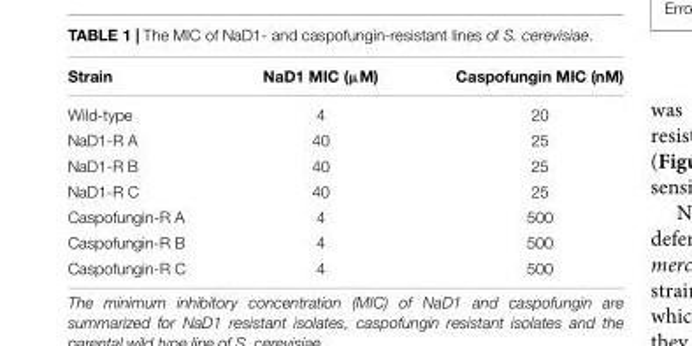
<table><thead><tr><td>Strain</td><td>NaD1 MIC (µM)</td><td>Caspofungin MIC (nM)</td></tr></thead><tbody><tr><td>Wild-type</td><td>4</td><td>20</td></tr><tr><td>NaD1-R A</td><td>40</td><td>25</td></tr><tr><td>NaD1-R B</td><td>40</td><td>25</td></tr><tr><td>NaD1-R C</td><td>40</td><td>25</td></tr><tr><td>Caspofungin-R A</td><td>4</td><td>500</td></tr><tr><td>Caspofungin-R B</td><td>4</td><td>500</td></tr><tr><td>Caspofungin-R C</td><td>4</td><td>500</td></tr></tbody></table>